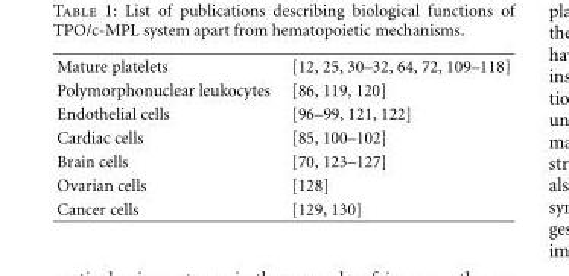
<table><tbody><tr><td>Mature platelets</td><td>[12, 25, 30–32, 64, 72, 109–118]</td></tr><tr><td>Polymorphonuclear leukocytes</td><td>[86, 119, 120]</td></tr><tr><td>Endothelial cells</td><td>[96–99, 121, 122]</td></tr><tr><td>Cardiac cells</td><td>[85, 100–102]</td></tr><tr><td>Brain cells</td><td>[70, 123–127]</td></tr><tr><td>Ovarian cells</td><td>[128]</td></tr><tr><td>Cancer cells</td><td>[129, 130]</td></tr></tbody></table>